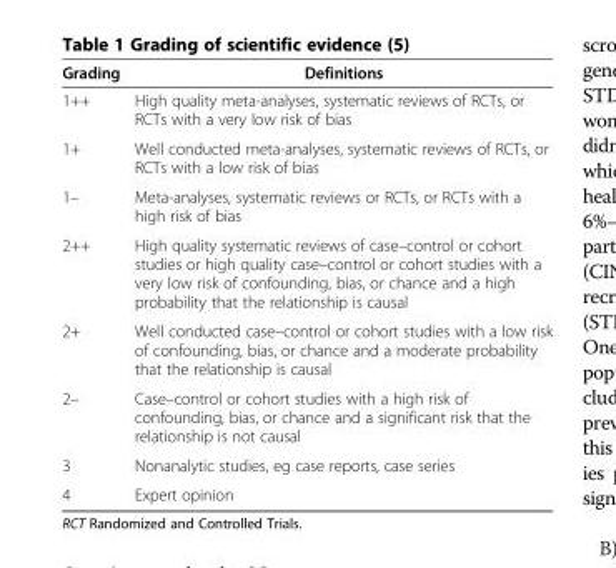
<table><thead><tr><td>Grading</td><td>Definitions</td></tr></thead><tbody><tr><td>1++</td><td>High quality meta-analyses, systematic reviews of RCTs, or RCTs with a very low risk of bias</td></tr><tr><td>1+</td><td>Well conducted meta-analyses, systematic reviews of RCTs, or RCTs with a low risk of bias</td></tr><tr><td>1–</td><td>Meta-analyses, systematic reviews or RCTs, or RCTs with a high risk of bias</td></tr><tr><td>2++</td><td>High quality systematic reviews of case–control or cohort studies or high quality case–control or cohort studies with a very low risk of confounding, bias, or chance and a high probability that the relationship is causal</td></tr><tr><td>2+</td><td>Well conducted case–control or cohort studies with a low risk of confounding, bias, or chance and a moderate probability that the relationship is causal</td></tr><tr><td>2–</td><td>Case–control or cohort studies with a high risk of confounding, bias, or chance and a significant risk that the relationship is not causal</td></tr><tr><td>3</td><td>Nonanalytic studies, eg case reports, case series</td></tr><tr><td>4</td><td>Expert opinion</td></tr></tbody></table>